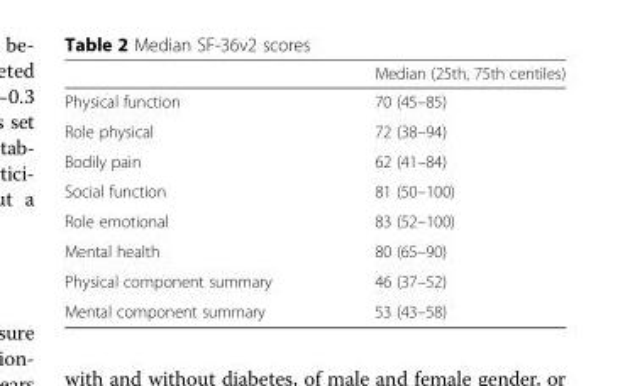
<table><thead><tr><td></td><td>Median (25th, 75th centiles)</td></tr></thead><tbody><tr><td>Physical function</td><td>70 (45–85)</td></tr><tr><td>Role physical</td><td>72 (38–94)</td></tr><tr><td>Bodily pain</td><td>62 (41–84)</td></tr><tr><td>Social function</td><td>81 (50–100)</td></tr><tr><td>Role emotional</td><td>83 (52–100)</td></tr><tr><td>Mental health</td><td>80 (65–90)</td></tr><tr><td>Physical component summary</td><td>46 (37–52)</td></tr><tr><td>Mental component summary</td><td>53 (43–58)</td></tr></tbody></table>